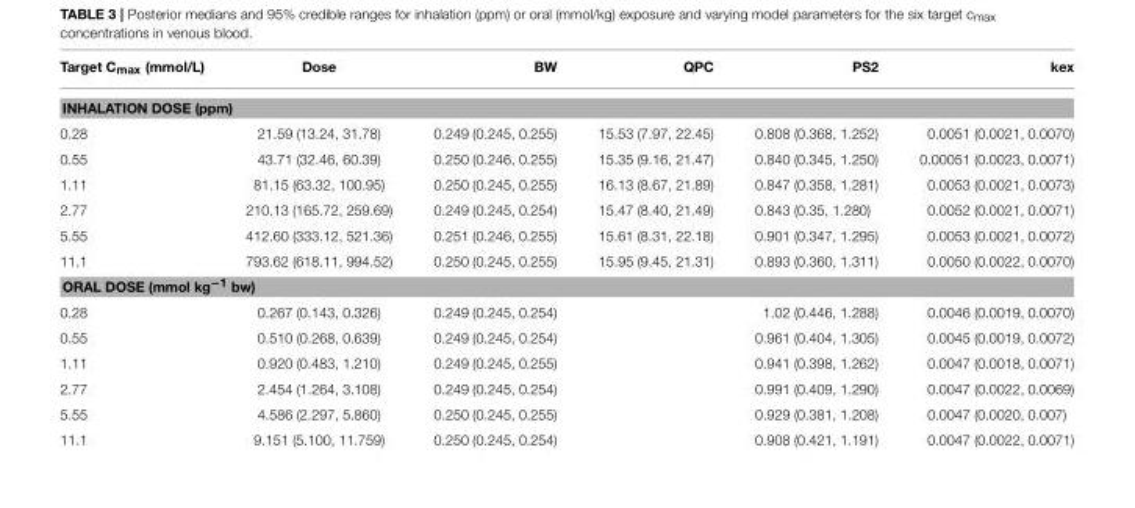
<table><thead><tr><td>Target C<sub>max</sub> (mmol/L)</td><td>Dose</td><td>BW</td><td>QPC</td><td>PS2</td><td>kex</td></tr></thead><tbody><tr><td colspan="6">INHALATION DOSE (ppm)</td></tr><tr><td>0.28</td><td>21.59 (13.24, 31.78)</td><td>0.249 (0.245, 0.255)</td><td>15.53 (7.97, 22.45)</td><td>0.808 (0.368, 1.252)</td><td>0.0051 (0.0021, 0.0070)</td></tr><tr><td>0.55</td><td>43.71 (32.46, 60.39)</td><td>0.250 (0.246, 0.255)</td><td>15.35 (9.16, 21.47)</td><td>0.840 (0.345, 1.250)</td><td>0.00051 (0.0023, 0.0071)</td></tr><tr><td>1.11</td><td>81.15 (63.32, 100.95)</td><td>0.250 (0.245, 0.255)</td><td>16.13 (8.67, 21.89)</td><td>0.847 (0.358, 1.281)</td><td>0.0053 (0.0021, 0.0073)</td></tr><tr><td>2.77</td><td>210.13 (165.72, 259.69)</td><td>0.249 (0.245, 0.254)</td><td>15.47 (8.40, 21.49)</td><td>0.843 (0.35, 1.280)</td><td>0.0052 (0.0021, 0.0071)</td></tr><tr><td>5.55</td><td>412.60 (333.12, 521.36)</td><td>0.251 (0.246, 0.255)</td><td>15.61 (8.31, 22.18)</td><td>0.901 (0.347, 1.295)</td><td>0.0053 (0.0021, 0.0072)</td></tr><tr><td>11.1</td><td>793.62 (618.11, 994.52)</td><td>0.250 (0.245, 0.255)</td><td>15.95 (9.45, 21.31)</td><td>0.893 (0.360, 1.311)</td><td>0.0050 (0.0022, 0.0070)</td></tr><tr><td colspan="6">ORAL DOSE (mmol kg<sup>−1</sup> bw)</td></tr><tr><td>0.28</td><td>0.267 (0.143, 0.326)</td><td>0.249 (0.245, 0.254)</td><td></td><td>1.02 (0.446, 1.288)</td><td>0.0046 (0.0019, 0.0070)</td></tr><tr><td>0.55</td><td>0.510 (0.268, 0.639)</td><td>0.249 (0.245, 0.254)</td><td></td><td>0.961 (0.404, 1.305)</td><td>0.0045 (0.0019, 0.0072)</td></tr><tr><td>1.11</td><td>0.920 (0.483, 1.210)</td><td>0.249 (0.245, 0.255)</td><td></td><td>0.941 (0.398, 1.262)</td><td>0.0047 (0.0018, 0.0071)</td></tr><tr><td>2.77</td><td>2.454 (1.264, 3.108)</td><td>0.249 (0.245, 0.254)</td><td></td><td>0.991 (0.409, 1.290)</td><td>0.0047 (0.0022, 0.0069)</td></tr><tr><td>5.55</td><td>4.586 (2.297, 5.860)</td><td>0.250 (0.245, 0.255)</td><td></td><td>0.929 (0.381, 1.208)</td><td>0.0047 (0.0020, 0.007)</td></tr><tr><td>11.1</td><td>9.151 (5.100, 11.759)</td><td>0.250 (0.245, 0.254)</td><td></td><td>0.908 (0.421, 1.191)</td><td>0.0047 (0.0022, 0.0071)</td></tr></tbody></table>